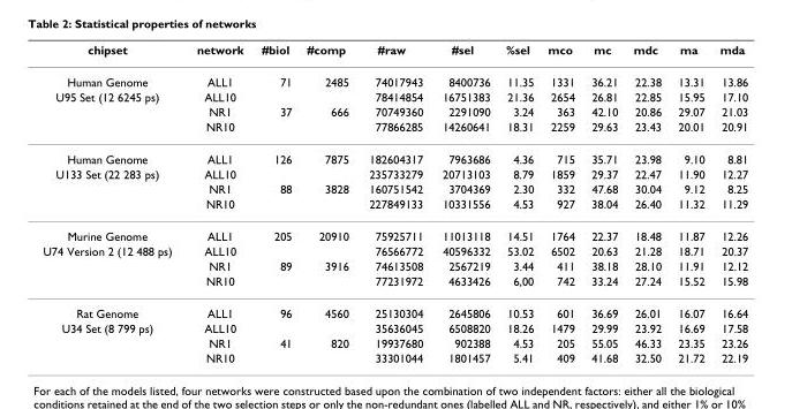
<table><thead><tr><td>chipset</td><td>network</td><td>#biol</td><td>#comp</td><td>#raw</td><td>#sel</td><td>%sel</td><td>mco</td><td>mc</td><td>mdc</td><td>ma</td><td>mda</td></tr></thead><tbody><tr><td>Human Genome</td><td>ALL1</td><td>71</td><td>2485</td><td>74017943</td><td>8400736</td><td>11.35</td><td>1331</td><td>36.21</td><td>22.38</td><td>13.31</td><td>13.86</td></tr><tr><td rowspan="3">U95 Set (12 6245 ps)</td><td>ALL10</td><td></td><td></td><td>78414854</td><td>16751383</td><td>21.36</td><td>2654</td><td>26.81</td><td>22.85</td><td>15.95</td><td>17.10</td></tr><tr><td>NR1</td><td>37</td><td>666</td><td>70749360</td><td>2291090</td><td>3.24</td><td>363</td><td>42.10</td><td>20.86</td><td>29.07</td><td>21.03</td></tr><tr><td>NR10</td><td></td><td></td><td>77866285</td><td>14260641</td><td>18.31</td><td>2259</td><td>29.63</td><td>23.43</td><td>20.01</td><td>20.91</td></tr><tr><td>Human Genome</td><td>ALL1</td><td>126</td><td>7875</td><td>182604317</td><td>7963686</td><td>4.36</td><td>715</td><td>35.71</td><td>23.98</td><td>9.10</td><td>8.81</td></tr><tr><td rowspan="3">U133 Set (22 283 ps)</td><td>ALL10</td><td></td><td></td><td>235733279</td><td>20713103</td><td>8.79</td><td>1859</td><td>29.37</td><td>22.47</td><td>11.90</td><td>12.27</td></tr><tr><td>NR1</td><td>88</td><td>3828</td><td>160751542</td><td>3704369</td><td>2.30</td><td>332</td><td>47.68</td><td>30.04</td><td>9.12</td><td>8.25</td></tr><tr><td>NR10</td><td></td><td></td><td>227849133</td><td>10331556</td><td>4.53</td><td>927</td><td>38.04</td><td>26.40</td><td>11.32</td><td>11.29</td></tr><tr><td>Murine Genome</td><td>ALL1</td><td>205</td><td>20910</td><td>75925711</td><td>11013118</td><td>14.51</td><td>1764</td><td>22.37</td><td>18.48</td><td>11.87</td><td>12.26</td></tr><tr><td rowspan="3">U74 Version 2 (12 488 ps)</td><td>ALL10</td><td></td><td></td><td>76566772</td><td>40596332</td><td>53.02</td><td>6502</td><td>20.63</td><td>21.28</td><td>18.71</td><td>20.37</td></tr><tr><td>NR1</td><td>89</td><td>3916</td><td>74613508</td><td>2567219</td><td>3.44</td><td>411</td><td>38.18</td><td>28.10</td><td>11.91</td><td>12.12</td></tr><tr><td>NR10</td><td></td><td></td><td>77231972</td><td>4633426</td><td>6,00</td><td>742</td><td>33.24</td><td>27.24</td><td>15.52</td><td>15.98</td></tr><tr><td>Rat Genome</td><td>ALL1</td><td>96</td><td>4560</td><td>25130304</td><td>2645806</td><td>10.53</td><td>601</td><td>36.69</td><td>26.01</td><td>16.07</td><td>16.64</td></tr><tr><td rowspan="3">U34 Set (8 799 ps)</td><td>ALL10</td><td></td><td></td><td>35636045</td><td>6508820</td><td>18.26</td><td>1479</td><td>29.99</td><td>23.92</td><td>16.69</td><td>17.58</td></tr><tr><td>NR1</td><td>41</td><td>820</td><td>19937680</td><td>902388</td><td>4.53</td><td>205</td><td>55.05</td><td>46.33</td><td>23.35</td><td>23.26</td></tr><tr><td>NR10</td><td></td><td></td><td>33301044</td><td>1801457</td><td>5.41</td><td>409</td><td>41.68</td><td>32.50</td><td>21.72</td><td>22.19</td></tr></tbody></table>